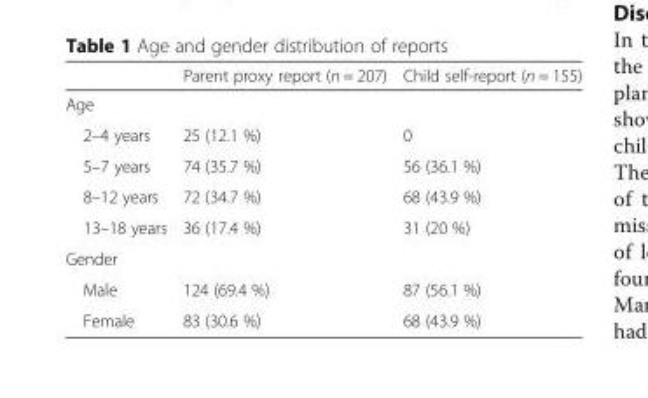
<table><thead><tr><td></td><td>Parent proxy report (n = 207)</td><td>Child self-report (n = 155)</td></tr></thead><tbody><tr><td colspan="3">Age</td></tr><tr><td>2–4 years</td><td>25 (12.1 %)</td><td>0</td></tr><tr><td>5–7 years</td><td>74 (35.7 %)</td><td>56 (36.1 %)</td></tr><tr><td>8–12 years</td><td>72 (34.7 %)</td><td>68 (43.9 %)</td></tr><tr><td>13–18 years</td><td>36 (17.4 %)</td><td>31 (20 %)</td></tr><tr><td colspan="3">Gender</td></tr><tr><td>Male</td><td>124 (69.4 %)</td><td>87 (56.1 %)</td></tr><tr><td>Female</td><td>83 (30.6 %)</td><td>68 (43.9 %)</td></tr></tbody></table>